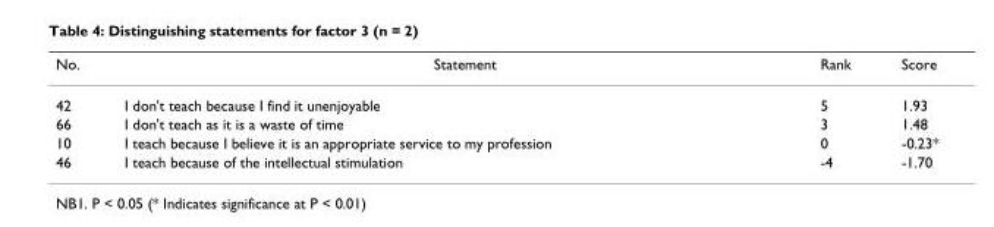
<table><thead><tr><td>No.</td><td>Statement</td><td>Rank</td><td>Score</td></tr></thead><tbody><tr><td>42</td><td>I don&#x27;t teach because I find it unenjoyable</td><td>5</td><td>1.93</td></tr><tr><td>66</td><td>I don&#x27;t teach as it is a waste of time</td><td>3</td><td>1.48</td></tr><tr><td>10</td><td>I teach because I believe it is an appropriate service to my profession</td><td>0</td><td>-0.23*</td></tr><tr><td>46</td><td>I teach because of the intellectual stimulation</td><td>-4</td><td>-1.70</td></tr></tbody></table>